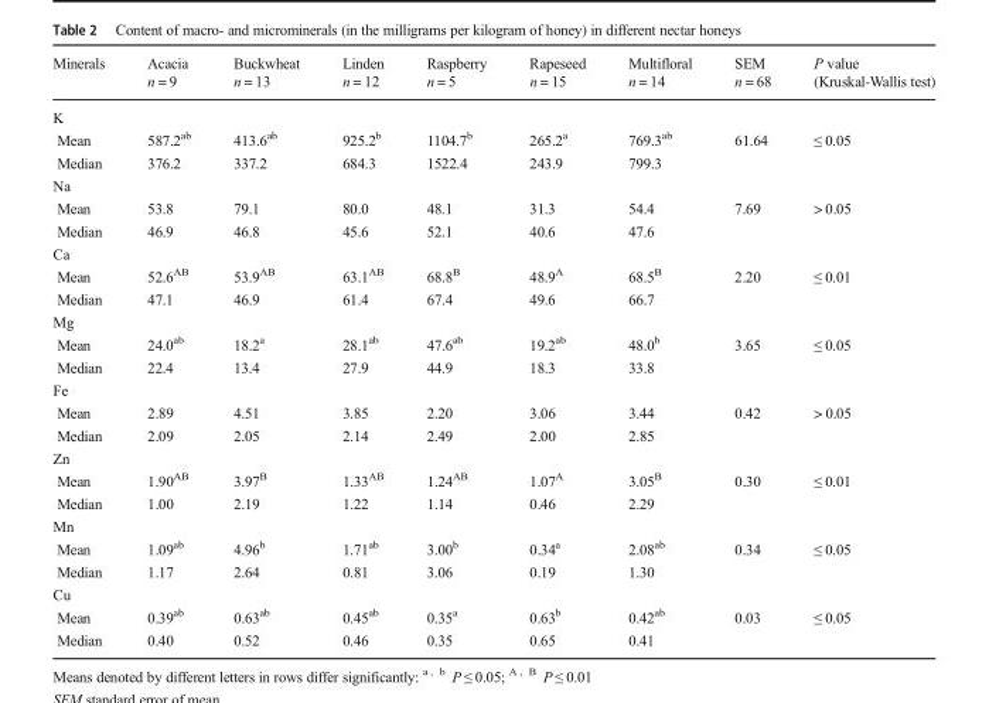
<table><thead><tr><td rowspan="2">Minerals</td><td rowspan="2">Acacia n = 9</td><td rowspan="2">Buckwheat n = 13</td><td rowspan="2">Linden n = 12</td><td rowspan="2">Raspberry n = 5</td><td rowspan="2">Rapeseed n = 15</td><td rowspan="2">Multifloral n = 14</td><td rowspan="2">SEM n = 68</td><td rowspan="2">P value (Kruskal-Wallis test)</td></tr><tr></tr></thead><tbody><tr><td colspan="9">K</td></tr><tr><td>Mean</td><td>587.2<sup>ab</sup></td><td>413.6<sup>ab</sup></td><td>925.2<sup>b</sup></td><td>1104.7<sup>b</sup></td><td>265.2<sup>a</sup></td><td>769.3<sup>ab</sup></td><td>61.64</td><td>≤ 0.05</td></tr><tr><td>Median</td><td>376.2</td><td>337.2</td><td>684.3</td><td>1522.4</td><td>243.9</td><td>799.3</td><td></td><td></td></tr><tr><td colspan="9">Na</td></tr><tr><td>Mean</td><td>53.8</td><td>79.1</td><td>80.0</td><td>48.1</td><td>31.3</td><td>54.4</td><td>7.69</td><td>&gt; 0.05</td></tr><tr><td>Median</td><td>46.9</td><td>46.8</td><td>45.6</td><td>52.1</td><td>40.6</td><td>47.6</td><td></td><td></td></tr><tr><td colspan="9">Ca</td></tr><tr><td>Mean</td><td>52.6<sup>AB</sup></td><td>53.9<sup>AB</sup></td><td>63.1<sup>AB</sup></td><td>68.8<sup>B</sup></td><td>48.9<sup>A</sup></td><td>68.5<sup>B</sup></td><td>2.20</td><td>≤ 0.01</td></tr><tr><td>Median</td><td>47.1</td><td>46.9</td><td>61.4</td><td>67.4</td><td>49.6</td><td>66.7</td><td></td><td></td></tr><tr><td colspan="9">Mg</td></tr><tr><td>Mean</td><td>24.0<sup>ab</sup></td><td>18.2<sup>a</sup></td><td>28.1<sup>ab</sup></td><td>47.6<sup>ab</sup></td><td>19.2<sup>ab</sup></td><td>48.0<sup>b</sup></td><td>3.65</td><td>≤ 0.05</td></tr><tr><td>Median</td><td>22.4</td><td>13.4</td><td>27.9</td><td>44.9</td><td>18.3</td><td>33.8</td><td></td><td></td></tr><tr><td colspan="9">Fe</td></tr><tr><td>Mean</td><td>2.89</td><td>4.51</td><td>3.85</td><td>2.20</td><td>3.06</td><td>3.44</td><td>0.42</td><td>&gt; 0.05</td></tr><tr><td>Median</td><td>2.09</td><td>2.05</td><td>2.14</td><td>2.49</td><td>2.00</td><td>2.85</td><td></td><td></td></tr><tr><td colspan="9">Zn</td></tr><tr><td>Mean</td><td>1.90<sup>AB</sup></td><td>3.97<sup>B</sup></td><td>1.33<sup>AB</sup></td><td>1.24<sup>AB</sup></td><td>1.07<sup>A</sup></td><td>3.05<sup>B</sup></td><td>0.30</td><td>≤ 0.01</td></tr><tr><td>Median</td><td>1.00</td><td>2.19</td><td>1.22</td><td>1.14</td><td>0.46</td><td>2.29</td><td></td><td></td></tr><tr><td colspan="9">Mn</td></tr><tr><td>Mean</td><td>1.09<sup>ab</sup></td><td>4.96<sup>b</sup></td><td>1.71<sup>ab</sup></td><td>3.00<sup>b</sup></td><td>0.34<sup>a</sup></td><td>2.08<sup>ab</sup></td><td>0.34</td><td>≤ 0.05</td></tr><tr><td>Median</td><td>1.17</td><td>2.64</td><td>0.81</td><td>3.06</td><td>0.19</td><td>1.30</td><td></td><td></td></tr><tr><td colspan="9">Cu</td></tr><tr><td>Mean</td><td>0.39<sup>ab</sup></td><td>0.63<sup>ab</sup></td><td>0.45<sup>ab</sup></td><td>0.35<sup>a</sup></td><td>0.63<sup>b</sup></td><td>0.42<sup>ab</sup></td><td>0.03</td><td>≤ 0.05</td></tr><tr><td>Median</td><td>0.40</td><td>0.52</td><td>0.46</td><td>0.35</td><td>0.65</td><td>0.41</td><td></td><td></td></tr></tbody></table>